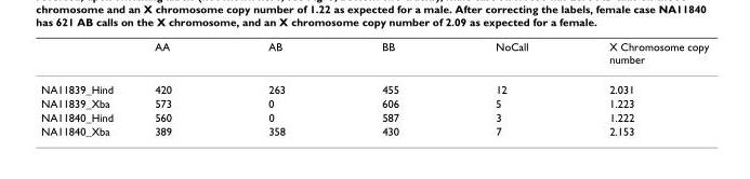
<table><thead><tr><td></td><td>AA</td><td>AB</td><td>BB</td><td>NoCall</td><td>X Chromosome copy number</td></tr></thead><tbody><tr><td>NA11839_Hind</td><td>420</td><td>263</td><td>455</td><td>12</td><td>2.031</td></tr><tr><td>NA11839_Xba</td><td>573</td><td>0</td><td>606</td><td>5</td><td>1.223</td></tr><tr><td>NA11840_Hind</td><td>560</td><td>0</td><td>587</td><td>3</td><td>1.222</td></tr><tr><td>NA11840_Xba</td><td>389</td><td>358</td><td>430</td><td>7</td><td>2.153</td></tr></tbody></table>